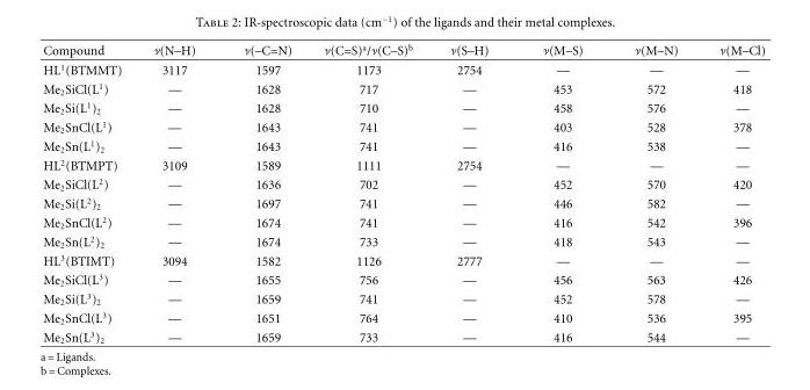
<table><thead><tr><td>Compound</td><td>ν(N–H)</td><td>ν(–C=N)</td><td>ν(C=S)<sup>a</sup>/ν(C–S)<sup>b</sup></td><td>ν(S–H)</td><td>ν(M–S)</td><td>ν(M–N)</td><td>ν(M–Cl)</td></tr></thead><tbody><tr><td>HL<sup>1</sup>(BTMMT)</td><td>3117</td><td>1597</td><td>1173</td><td>2754</td><td>—</td><td>—</td><td>—</td></tr><tr><td>Me<sub>2</sub>SiCl(L<sup>1</sup>)</td><td>—</td><td>1628</td><td>717</td><td>—</td><td>453</td><td>572</td><td>418</td></tr><tr><td>Me<sub>2</sub>Si(L<sup>1</sup>)<sub>2</sub></td><td>—</td><td>1628</td><td>710</td><td>—</td><td>458</td><td>576</td><td>—</td></tr><tr><td>Me<sub>2</sub>SnCl(L<sup>1</sup>)</td><td>—</td><td>1643</td><td>741</td><td>—</td><td>403</td><td>528</td><td>378</td></tr><tr><td>Me<sub>2</sub>Sn(L<sup>1</sup>)<sub>2</sub></td><td>—</td><td>1643</td><td>741</td><td>—</td><td>416</td><td>538</td><td>—</td></tr><tr><td>HL<sup>2</sup>(BTMPT)</td><td>3109</td><td>1589</td><td>1111</td><td>2754</td><td>—</td><td>—</td><td>—</td></tr><tr><td>Me<sub>2</sub>SiCl(L<sup>2</sup>)</td><td>—</td><td>1636</td><td>702</td><td>—</td><td>452</td><td>570</td><td>420</td></tr><tr><td>Me<sub>2</sub>Si(L<sup>2</sup>)<sub>2</sub></td><td>—</td><td>1697</td><td>741</td><td>—</td><td>446</td><td>582</td><td>—</td></tr><tr><td>Me<sub>2</sub>SnCl(L<sup>2</sup>)</td><td>—</td><td>1674</td><td>741</td><td>—</td><td>416</td><td>542</td><td>396</td></tr><tr><td>Me<sub>2</sub>Sn(L<sup>2</sup>)<sub>2</sub></td><td>—</td><td>1674</td><td>733</td><td>—</td><td>418</td><td>543</td><td>—</td></tr><tr><td>HL<sup>3</sup>(BTIMT)</td><td>3094</td><td>1582</td><td>1126</td><td>2777</td><td>—</td><td>—</td><td>—</td></tr><tr><td>Me<sub>2</sub>SiCl(L<sup>3</sup>)</td><td>—</td><td>1655</td><td>756</td><td>—</td><td>456</td><td>563</td><td>426</td></tr><tr><td>Me<sub>2</sub>Si(L<sup>3</sup>)<sub>2</sub></td><td>—</td><td>1659</td><td>741</td><td>—</td><td>452</td><td>578</td><td>—</td></tr><tr><td>Me<sub>2</sub>SnCl(L<sup>3</sup>)</td><td>—</td><td>1651</td><td>764</td><td>—</td><td>410</td><td>536</td><td>395</td></tr><tr><td>Me<sub>2</sub>Sn(L<sup>3</sup>)<sub>2</sub></td><td>—</td><td>1659</td><td>733</td><td>—</td><td>416</td><td>544</td><td>—</td></tr></tbody></table>